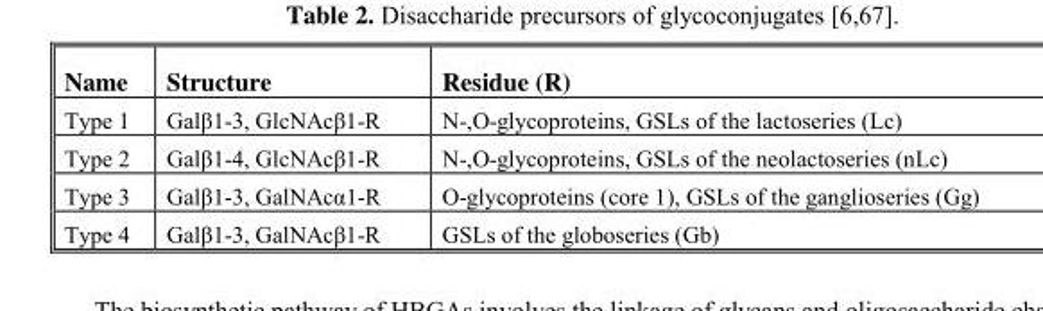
<table><thead><tr><td>Name</td><td>Structure</td><td>Residue (R)</td></tr></thead><tbody><tr><td>Type 1</td><td>Galβ1-3, GlcNAcβ1-R</td><td>N-,O-glycoproteins, GSLs of the lactoseries (Lc)</td></tr><tr><td>Type 2</td><td>Galβ1-4, GlcNAcβ1-R</td><td>N-,O-glycoproteins, GSLs of the neolactoseries (nLc)</td></tr><tr><td>Type 3</td><td>Galβ1-3, GalNAcα1-R</td><td>O-glycoproteins (core 1), GSLs of the ganglioseries (Gg)</td></tr><tr><td>Type 4</td><td>Galβ1-3, GalNAcβ1-R</td><td>GSLs of the globoseries (Gb)</td></tr></tbody></table>